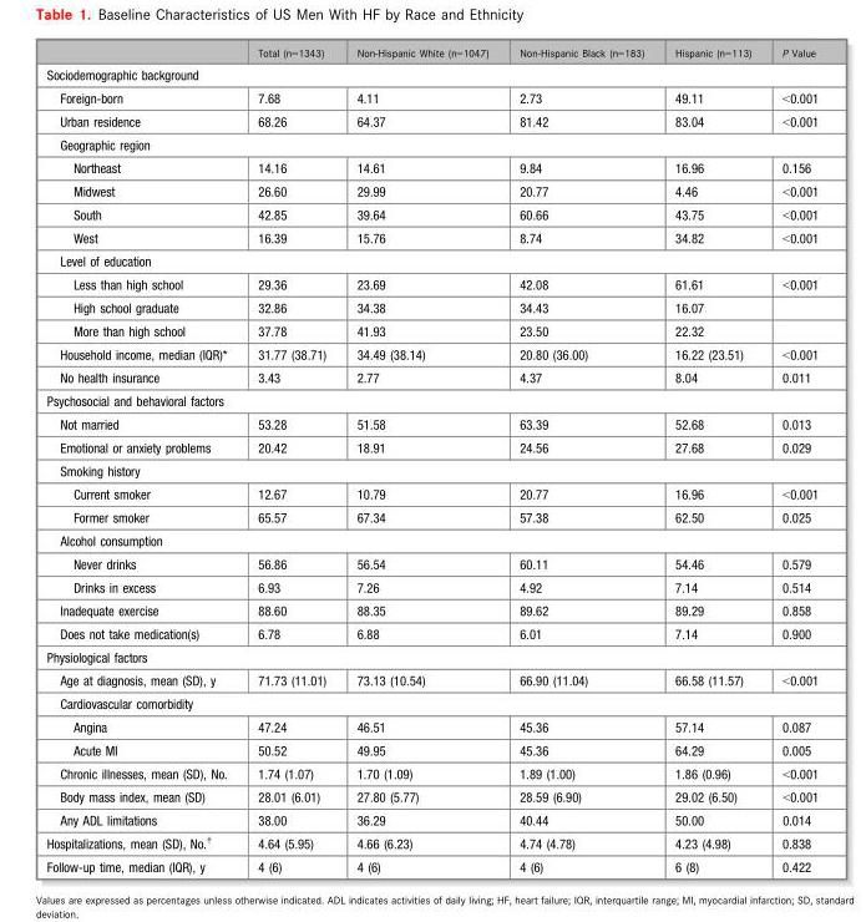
<table><thead><tr><td></td><td>Total (n=1343)</td><td>Non-Hispanic White (n=1047)</td><td>Non-Hispanic Black (n=183)</td><td>Hispanic (n=113)</td><td>P Value</td></tr></thead><tbody><tr><td colspan="6">Sociodemographic background</td></tr><tr><td>Foreign-born</td><td>7.68</td><td>4.11</td><td>2.73</td><td>49.11</td><td>&lt;0.001</td></tr><tr><td>Urban residence</td><td>68.26</td><td>64.37</td><td>81.42</td><td>83.04</td><td>&lt;0.001</td></tr><tr><td colspan="6">Geographic region</td></tr><tr><td>Northeast</td><td>14.16</td><td>14.61</td><td>9.84</td><td>16.96</td><td>0.156</td></tr><tr><td>Midwest</td><td>26.60</td><td>29.99</td><td>20.77</td><td>4.46</td><td>&lt;0.001</td></tr><tr><td>South</td><td>42.85</td><td>39.64</td><td>60.66</td><td>43.75</td><td>&lt;0.001</td></tr><tr><td>West</td><td>16.39</td><td>15.76</td><td>8.74</td><td>34.82</td><td>&lt;0.001</td></tr><tr><td colspan="6">Level of education</td></tr><tr><td>Less than high school</td><td>29.36</td><td>23.69</td><td>42.08</td><td>61.61</td><td>&lt;0.001</td></tr><tr><td>High school graduate</td><td>32.86</td><td>34.38</td><td>34.43</td><td>16.07</td><td></td></tr><tr><td>More than high school</td><td>37.78</td><td>41.93</td><td>23.50</td><td>22.32</td><td></td></tr><tr><td>Household income, median (IQR)*</td><td>31.77 (38.71)</td><td>34.49 (38.14)</td><td>20.80 (36.00)</td><td>16.22 (23.51)</td><td>&lt;0.001</td></tr><tr><td>No health insurance</td><td>3.43</td><td>2.77</td><td>4.37</td><td>8.04</td><td>0.011</td></tr><tr><td colspan="6">Psychosocial and behavioral factors</td></tr><tr><td>Not married</td><td>53.28</td><td>51.58</td><td>63.39</td><td>52.68</td><td>0.013</td></tr><tr><td>Emotional or anxiety problems</td><td>20.42</td><td>18.91</td><td>24.56</td><td>27.68</td><td>0.029</td></tr><tr><td colspan="6">Smoking history</td></tr><tr><td>Current smoker</td><td>12.67</td><td>10.79</td><td>20.77</td><td>16.96</td><td>&lt;0.001</td></tr><tr><td>Former smoker</td><td>65.57</td><td>67.34</td><td>57.38</td><td>62.50</td><td>0.025</td></tr><tr><td colspan="6">Alcohol consumption</td></tr><tr><td>Never drinks</td><td>56.86</td><td>56.54</td><td>60.11</td><td>54.46</td><td>0.579</td></tr><tr><td>Drinks in excess</td><td>6.93</td><td>7.26</td><td>4.92</td><td>7.14</td><td>0.514</td></tr><tr><td>Inadequate exercise</td><td>88.60</td><td>88.35</td><td>89.62</td><td>89.29</td><td>0.858</td></tr><tr><td>Does not take medication(s)</td><td>6.78</td><td>6.88</td><td>6.01</td><td>7.14</td><td>0.900</td></tr><tr><td colspan="6">Physiological factors</td></tr><tr><td>Age at diagnosis, mean (SD), y</td><td>71.73 (11.01)</td><td>73.13 (10.54)</td><td>66.90 (11.04)</td><td>66.58 (11.57)</td><td>&lt;0.001</td></tr><tr><td colspan="6">Cardiovascular comorbidity</td></tr><tr><td>Angina</td><td>47.24</td><td>46.51</td><td>45.36</td><td>57.14</td><td>0.087</td></tr><tr><td>Acute MI</td><td>50.52</td><td>49.95</td><td>45.36</td><td>64.29</td><td>0.005</td></tr><tr><td>Chronic illnesses, mean (SD), No.</td><td>1.74 (1.07)</td><td>1.70 (1.09)</td><td>1.89 (1.00)</td><td>1.86 (0.96)</td><td>&lt;0.001</td></tr><tr><td>Body mass index, mean (SD)</td><td>28.01 (6.01)</td><td>27.80 (5.77)</td><td>28.59 (6.90)</td><td>29.02 (6.50)</td><td>&lt;0.001</td></tr><tr><td>Any ADL limitations</td><td>38.00</td><td>36.29</td><td>40.44</td><td>50.00</td><td>0.014</td></tr><tr><td>Hospitalizations, mean (SD), No.†</td><td>4.64 (5.95)</td><td>4.66 (6.23)</td><td>4.74 (4.78)</td><td>4.23 (4.98)</td><td>0.838</td></tr><tr><td>Follow-up time, median (IQR), y</td><td>4 (6)</td><td>4 (6)</td><td>4 (6)</td><td>6 (8)</td><td>0.422</td></tr></tbody></table>